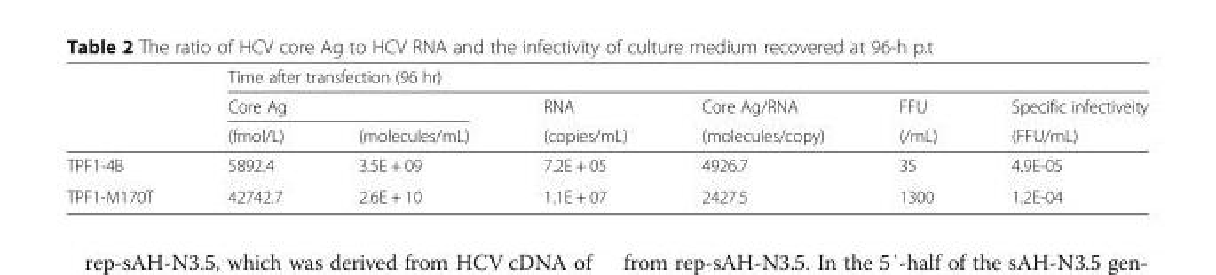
<table><thead><tr><td rowspan="3"></td><td colspan="6">Time after transfection (96 hr)</td></tr><tr><td colspan="2">Core Ag</td><td rowspan="2">RNA (copies/mL)</td><td rowspan="2">Core Ag/RNA (molecules/copy)</td><td rowspan="2">FFU (/mL)</td><td rowspan="2">Specific infectiveity (FFU/mL)</td></tr><tr><td>(fmol/L)</td><td>(molecules/mL)</td></tr></thead><tbody><tr><td>TPF1-4B</td><td>5892.4</td><td>3.5E + 09</td><td>7.2E + 05</td><td>4926.7</td><td>35</td><td>4.9E-05</td></tr><tr><td>TPF1-M170T</td><td>42742.7</td><td>2.6E + 10</td><td>1.1E + 07</td><td>2427.5</td><td>1300</td><td>1.2E-04</td></tr></tbody></table>